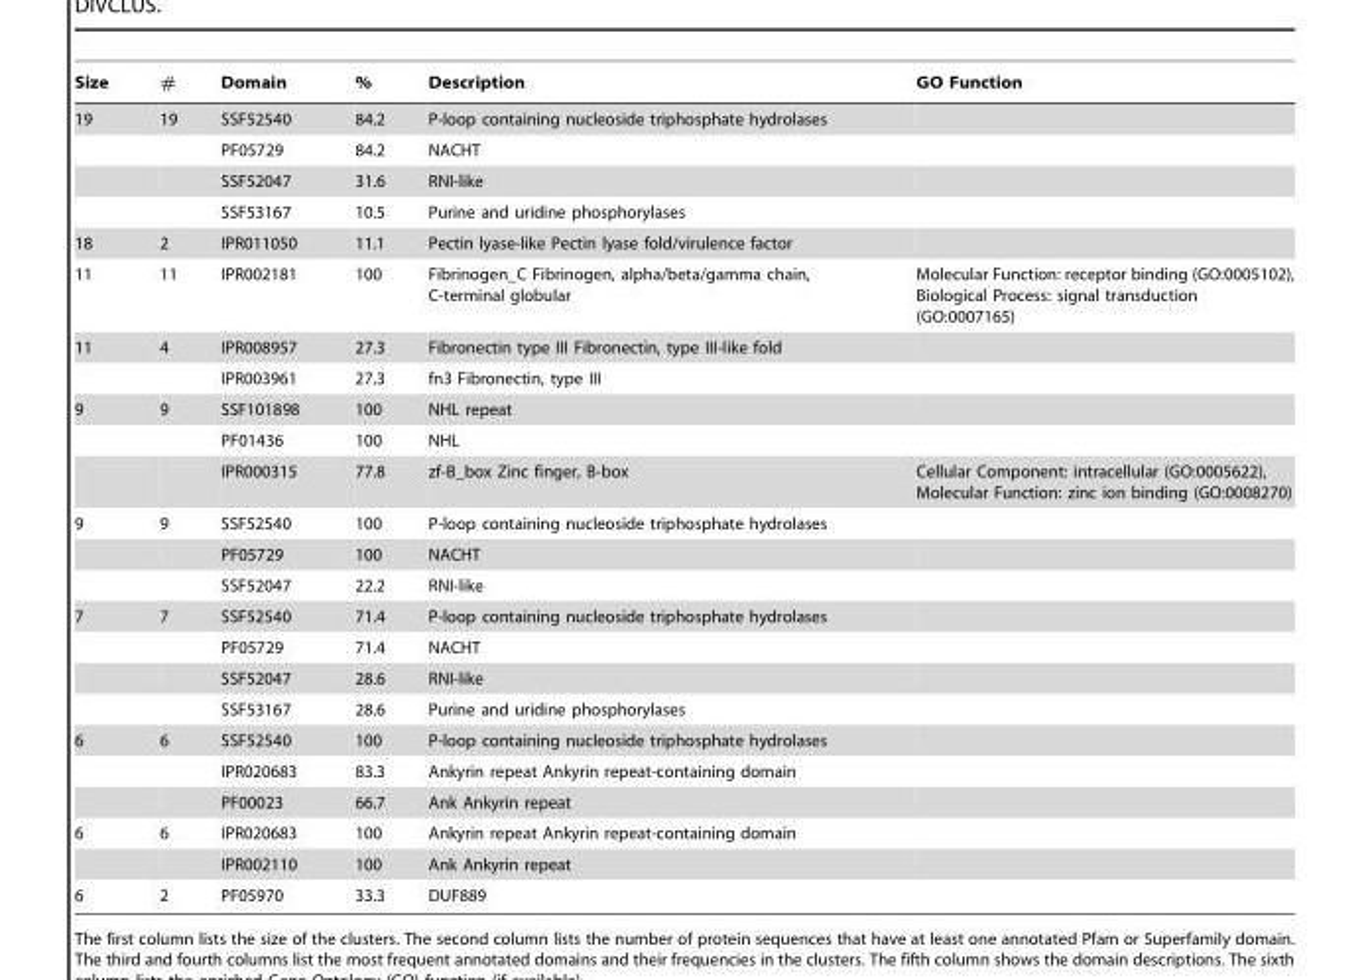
<table><thead><tr><td>Size</td><td>#</td><td>Domain</td><td>%</td><td>Description</td><td>GO Function</td></tr></thead><tbody><tr><td rowspan="4">19</td><td>19</td><td>SSF52540</td><td>84.2</td><td>P-loop containing nucleoside triphosphate hydrolases</td><td></td></tr><tr><td></td><td>PF05729</td><td>84.2</td><td>NACHT</td><td></td></tr><tr><td></td><td>SSF52047</td><td>31.6</td><td>RNI-like</td><td></td></tr><tr><td></td><td>SSF53167</td><td>10.5</td><td>Purine and uridine phosphorylases</td><td></td></tr><tr><td>18</td><td>2</td><td>IPR011050</td><td>11.1</td><td>Pectin lyase-like Pectin lyase fold/virulence factor</td><td></td></tr><tr><td>11</td><td>11</td><td>IPR002181</td><td>100</td><td>Fibrinogen_C Fibrinogen, alpha/beta/gamma chain, C-terminal globular</td><td>Molecular Function: receptor binding (GO:0005102), Biological Process: signal transduction (GO:0007165)</td></tr><tr><td rowspan="2">11</td><td>4</td><td>IPR008957</td><td>27.3</td><td>Fibronectin type III Fibronectin, type III-like fold</td><td></td></tr><tr><td></td><td>IPR003961</td><td>27.3</td><td>fn3 Fibronectin, type III</td><td></td></tr><tr><td rowspan="3">9</td><td>9</td><td>SSF101898</td><td>100</td><td>NHL repeat</td><td></td></tr><tr><td></td><td>PF01436</td><td>100</td><td>NHL</td><td></td></tr><tr><td></td><td>IPR000315</td><td>77.8</td><td>zf-B_box Zinc finger, B-box</td><td>Cellular Component: intracellular (GO:0005622), Molecular Function: zinc ion binding (GO:0008270)</td></tr><tr><td rowspan="3">9</td><td>9</td><td>SSF52540</td><td>100</td><td>P-loop containing nucleoside triphosphate hydrolases</td><td></td></tr><tr><td></td><td>PF05729</td><td>100</td><td>NACHT</td><td></td></tr><tr><td></td><td>SSF52047</td><td>22.2</td><td>RNI-like</td><td></td></tr><tr><td rowspan="4">7</td><td>7</td><td>SSF52540</td><td>71.4</td><td>P-loop containing nucleoside triphosphate hydrolases</td><td></td></tr><tr><td></td><td>PF05729</td><td>71.4</td><td>NACHT</td><td></td></tr><tr><td></td><td>SSF52047</td><td>28.6</td><td>RNI-like</td><td></td></tr><tr><td></td><td>SSF53167</td><td>28.6</td><td>Purine and uridine phosphorylases</td><td></td></tr><tr><td rowspan="3">6</td><td>6</td><td>SSF52540</td><td>100</td><td>P-loop containing nucleoside triphosphate hydrolases</td><td></td></tr><tr><td></td><td>IPR020683</td><td>83.3</td><td>Ankyrin repeat Ankyrin repeat-containing domain</td><td></td></tr><tr><td></td><td>PF00023</td><td>66.7</td><td>Ank Ankyrin repeat</td><td></td></tr><tr><td rowspan="2">6</td><td>6</td><td>IPR020683</td><td>100</td><td>Ankyrin repeat Ankyrin repeat-containing domain</td><td></td></tr><tr><td></td><td>IPR002110</td><td>100</td><td>Ank Ankyrin repeat</td><td></td></tr><tr><td>6</td><td>2</td><td>PF05970</td><td>33.3</td><td>DUF889</td><td></td></tr></tbody></table>